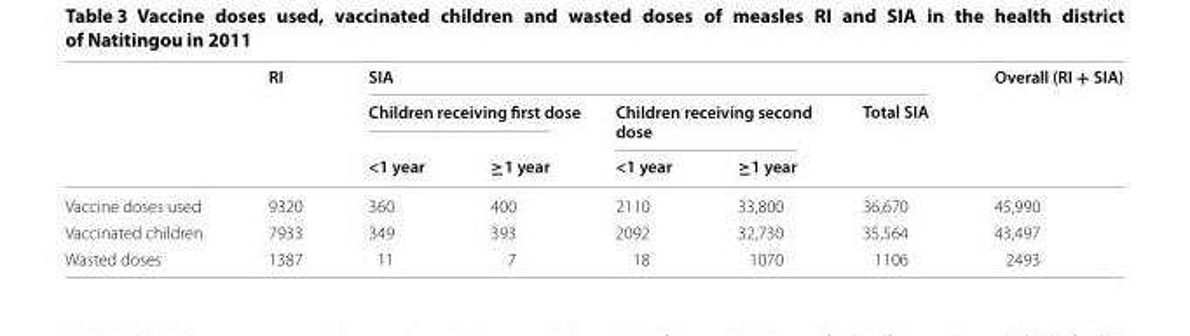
<table><thead><tr><td rowspan="3"></td><td rowspan="3">RI</td><td colspan="5">SIA</td><td rowspan="3">Overall (RI + SIA)</td></tr><tr><td colspan="2">Children receiving first dose</td><td colspan="2">Children receiving second dose</td><td rowspan="2">Total SIA</td></tr><tr><td>&lt;1 year</td><td>≥1 year</td><td>&lt;1 year</td><td>≥1 year</td></tr></thead><tbody><tr><td>Vaccine doses used</td><td>9320</td><td>360</td><td>400</td><td>2110</td><td>33,800</td><td>36,670</td><td>45,990</td></tr><tr><td>Vaccinated children</td><td>7933</td><td>349</td><td>393</td><td>2092</td><td>32,730</td><td>35,564</td><td>43,497</td></tr><tr><td>Wasted doses</td><td>1387</td><td>11</td><td>7</td><td>18</td><td>1070</td><td>1106</td><td>2493</td></tr></tbody></table>